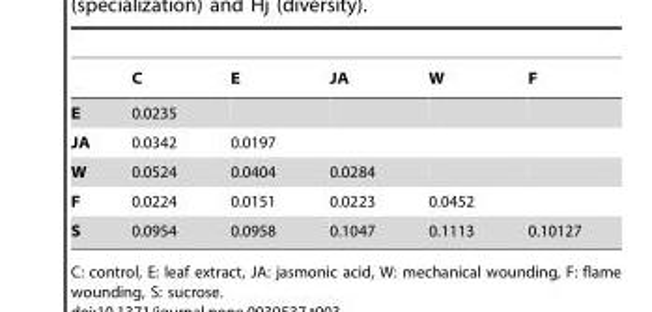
<table><thead><tr><td></td><td>C</td><td>E</td><td>JA</td><td>W</td><td>F</td></tr></thead><tbody><tr><td>E</td><td>0.0235</td><td></td><td></td><td></td><td></td></tr><tr><td>JA</td><td>0.0342</td><td>0.0197</td><td></td><td></td><td></td></tr><tr><td>W</td><td>0.0524</td><td>0.0404</td><td>0.0284</td><td></td><td></td></tr><tr><td>F</td><td>0.0224</td><td>0.0151</td><td>0.0223</td><td>0.0452</td><td></td></tr><tr><td>S</td><td>0.0954</td><td>0.0958</td><td>0.1047</td><td>0.1113</td><td>0.10127</td></tr></tbody></table>